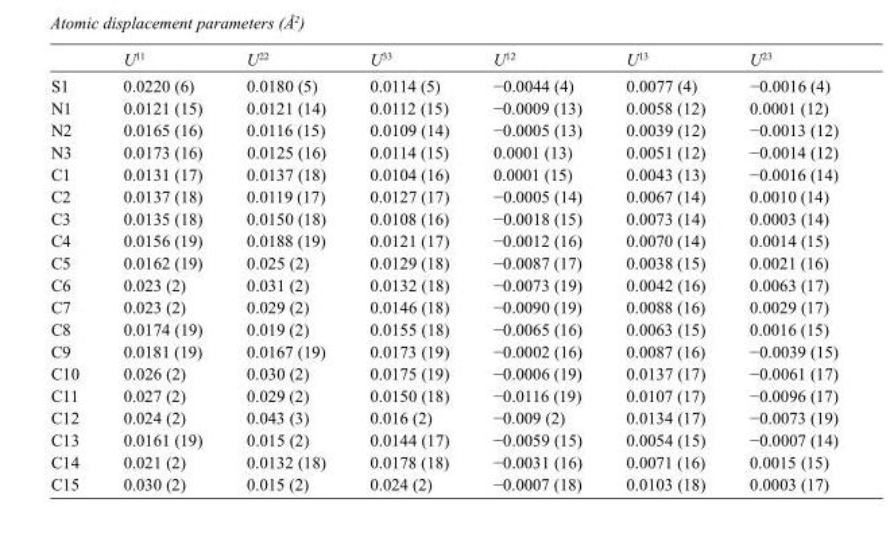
<table><thead><tr><td></td><td>U<sup>11</sup></td><td>U<sup>22</sup></td><td>U<sup>33</sup></td><td>U<sup>12</sup></td><td>U<sup>13</sup></td><td>U<sup>23</sup></td></tr></thead><tbody><tr><td>S1</td><td>0.0220 (6)</td><td>0.0180 (5)</td><td>0.0114 (5)</td><td>−0.0044 (4)</td><td>0.0077 (4)</td><td>−0.0016 (4)</td></tr><tr><td>N1</td><td>0.0121 (15)</td><td>0.0121 (14)</td><td>0.0112 (15)</td><td>−0.0009 (13)</td><td>0.0058 (12)</td><td>0.0001 (12)</td></tr><tr><td>N2</td><td>0.0165 (16)</td><td>0.0116 (15)</td><td>0.0109 (14)</td><td>−0.0005 (13)</td><td>0.0039 (12)</td><td>−0.0013 (12)</td></tr><tr><td>N3</td><td>0.0173 (16)</td><td>0.0125 (16)</td><td>0.0114 (15)</td><td>0.0001 (13)</td><td>0.0051 (12)</td><td>−0.0014 (12)</td></tr><tr><td>C1</td><td>0.0131 (17)</td><td>0.0137 (18)</td><td>0.0104 (16)</td><td>0.0001 (15)</td><td>0.0043 (13)</td><td>−0.0016 (14)</td></tr><tr><td>C2</td><td>0.0137 (18)</td><td>0.0119 (17)</td><td>0.0127 (17)</td><td>−0.0005 (14)</td><td>0.0067 (14)</td><td>0.0010 (14)</td></tr><tr><td>C3</td><td>0.0135 (18)</td><td>0.0150 (18)</td><td>0.0108 (16)</td><td>−0.0018 (15)</td><td>0.0073 (14)</td><td>0.0003 (14)</td></tr><tr><td>C4</td><td>0.0156 (19)</td><td>0.0188 (19)</td><td>0.0121 (17)</td><td>−0.0012 (16)</td><td>0.0070 (14)</td><td>0.0014 (15)</td></tr><tr><td>C5</td><td>0.0162 (19)</td><td>0.025 (2)</td><td>0.0129 (18)</td><td>−0.0087 (17)</td><td>0.0038 (15)</td><td>0.0021 (16)</td></tr><tr><td>C6</td><td>0.023 (2)</td><td>0.031 (2)</td><td>0.0132 (18)</td><td>−0.0073 (19)</td><td>0.0042 (16)</td><td>0.0063 (17)</td></tr><tr><td>C7</td><td>0.023 (2)</td><td>0.029 (2)</td><td>0.0146 (18)</td><td>−0.0090 (19)</td><td>0.0088 (16)</td><td>0.0029 (17)</td></tr><tr><td>C8</td><td>0.0174 (19)</td><td>0.019 (2)</td><td>0.0155 (18)</td><td>−0.0065 (16)</td><td>0.0063 (15)</td><td>0.0016 (15)</td></tr><tr><td>C9</td><td>0.0181 (19)</td><td>0.0167 (19)</td><td>0.0173 (19)</td><td>−0.0002 (16)</td><td>0.0087 (16)</td><td>−0.0039 (15)</td></tr><tr><td>C10</td><td>0.026 (2)</td><td>0.030 (2)</td><td>0.0175 (19)</td><td>−0.0006 (19)</td><td>0.0137 (17)</td><td>−0.0061 (17)</td></tr><tr><td>C11</td><td>0.027 (2)</td><td>0.029 (2)</td><td>0.0150 (18)</td><td>−0.0116 (19)</td><td>0.0107 (17)</td><td>−0.0096 (17)</td></tr><tr><td>C12</td><td>0.024 (2)</td><td>0.043 (3)</td><td>0.016 (2)</td><td>−0.009 (2)</td><td>0.0134 (17)</td><td>−0.0073 (19)</td></tr><tr><td>C13</td><td>0.0161 (19)</td><td>0.015 (2)</td><td>0.0144 (17)</td><td>−0.0059 (15)</td><td>0.0054 (15)</td><td>−0.0007 (14)</td></tr><tr><td>C14</td><td>0.021 (2)</td><td>0.0132 (18)</td><td>0.0178 (18)</td><td>−0.0031 (16)</td><td>0.0071 (16)</td><td>0.0015 (15)</td></tr><tr><td>C15</td><td>0.030 (2)</td><td>0.015 (2)</td><td>0.024 (2)</td><td>−0.0007 (18)</td><td>0.0103 (18)</td><td>0.0003 (17)</td></tr></tbody></table>